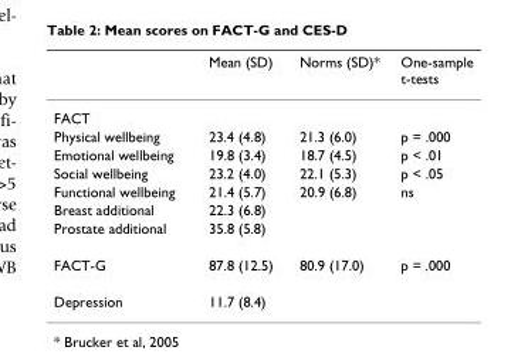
<table><thead><tr><td></td><td>Mean (SD)</td><td>Norms (SD)*</td><td>One-sample t-tests</td></tr></thead><tbody><tr><td colspan="4">FACT</td></tr><tr><td>Physical wellbeing</td><td>23.4 (4.8)</td><td>21.3 (6.0)</td><td>p = .000</td></tr><tr><td>Emotional wellbeing</td><td>19.8 (3.4)</td><td>18.7 (4.5)</td><td>p &lt; .01</td></tr><tr><td>Social wellbeing</td><td>23.2 (4.0)</td><td>22.1 (5.3)</td><td>p &lt; .05</td></tr><tr><td>Functional wellbeing</td><td>21.4 (5.7)</td><td>20.9 (6.8)</td><td>ns</td></tr><tr><td>Breast additional</td><td>22.3 (6.8)</td><td></td><td></td></tr><tr><td>Prostate additional</td><td>35.8 (5.8)</td><td></td><td></td></tr><tr><td>FACT-G</td><td>87.8 (12.5)</td><td>80.9 (17.0)</td><td>p = .000</td></tr><tr><td>Depression</td><td>11.7 (8.4)</td><td></td><td></td></tr></tbody></table>